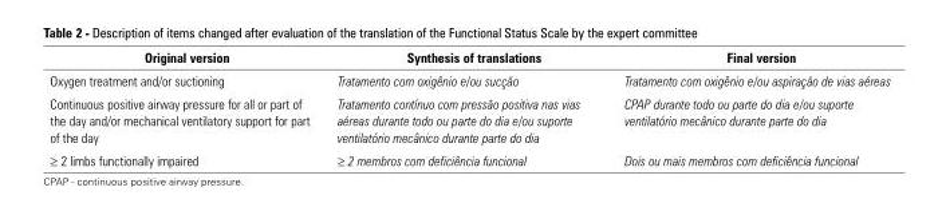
<table><thead><tr><td>Original version</td><td>Synthesis of translations</td><td>Final version</td></tr></thead><tbody><tr><td>Oxygen treatment and/or suctioning</td><td>Tratamento com oxigênio e/ou sucção</td><td>Tratamento com oxigênio e/ou aspiração de vias aéreas</td></tr><tr><td>Continuous positive airway pressure for all or part of the day and/or mechanical ventilatory support for part of the day</td><td>Tratamento contínuo com pressão positiva nas vias aéreas durante todo ou parte do dia e/ou suporte ventilatório mecânico durante parte do dia</td><td>CPAP durante todo ou parte do dia e/ou suporte ventilatório mecânico durante parte do dia</td></tr><tr><td>≥ 2 limbs functionally impaired</td><td>≥ 2 membros com deficiência funcional</td><td>Dois ou mais membros com deficiência funcional</td></tr></tbody></table>